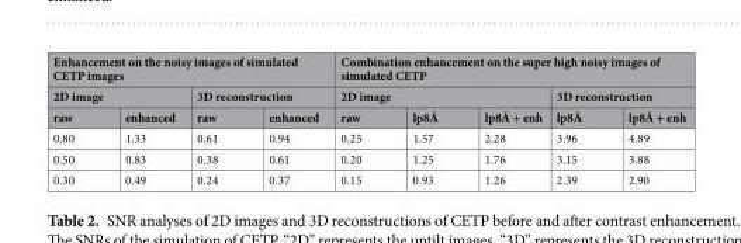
<table><thead><tr><td colspan="4">Enhancement on the noisy images of simulated CETP images</td><td colspan="5">Combination enhancement on the super high noisy images of simulated CETP</td></tr><tr><td colspan="2">2D image</td><td colspan="2">3D reconstruction</td><td colspan="3">2D image</td><td colspan="2">3D reconstruction</td></tr><tr><td>raw</td><td>enhanced</td><td>raw</td><td>enhanced</td><td>raw</td><td>lp8Å</td><td>lp8Å + enh</td><td>lp8Å</td><td>lp8Å + enh</td></tr></thead><tbody><tr><td>0.80</td><td>1.33</td><td>0.61</td><td>0.94</td><td>0.25</td><td>1.57</td><td>2.28</td><td>3.96</td><td>4.89</td></tr><tr><td>0.50</td><td>0.83</td><td>0.38</td><td>0.61</td><td>0.20</td><td>1.25</td><td>1.76</td><td>3.15</td><td>3.88</td></tr><tr><td>0.30</td><td>0.49</td><td>0.24</td><td>0.37</td><td>0.15</td><td>0.93</td><td>1.26</td><td>2.39</td><td>2.90</td></tr></tbody></table>